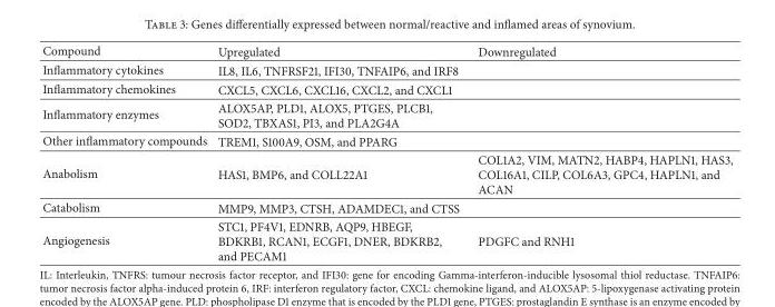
<table><thead><tr><td>Compound</td><td>Upregulated</td><td>Downregulated</td></tr></thead><tbody><tr><td>Inflammatory cytokines</td><td>IL8, IL6, TNFRSF21, IFI30, TNFAIP6, and IRF8</td><td></td></tr><tr><td>Inflammatory chemokines</td><td>CXCL5, CXCL6, CXCL16, CXCL2, and CXCL1</td><td></td></tr><tr><td>Inflammatory enzymes</td><td>ALOX5AP, PLD1, ALOX5, PTGES, PLCB1, SOD2, TBXAS1, PI3, and PLA2G4A</td><td></td></tr><tr><td>Other inflammatory compounds</td><td>TREM1, S100A9, OSM, and PPARG</td><td></td></tr><tr><td>Anabolism</td><td>HAS1, BMP6, and COLL22A1</td><td>COL1A2, VIM, MATN2, HABP4, HAPLN1, HAS3, COL16A1, CILP, COL6A3, GPC4, HAPLN1, and ACAN</td></tr><tr><td>Catabolism</td><td>MMP9, MMP3, CTSH, ADAMDEC1, and CTSS</td><td></td></tr><tr><td>Angiogenesis</td><td>STC1, PF4V1, EDNRB, AQP9, HBEGF, BDKRB1, RCAN1, ECGF1, DNER, BDKRB2, and PECAM1</td><td>PDGFC and RNH1</td></tr></tbody></table>